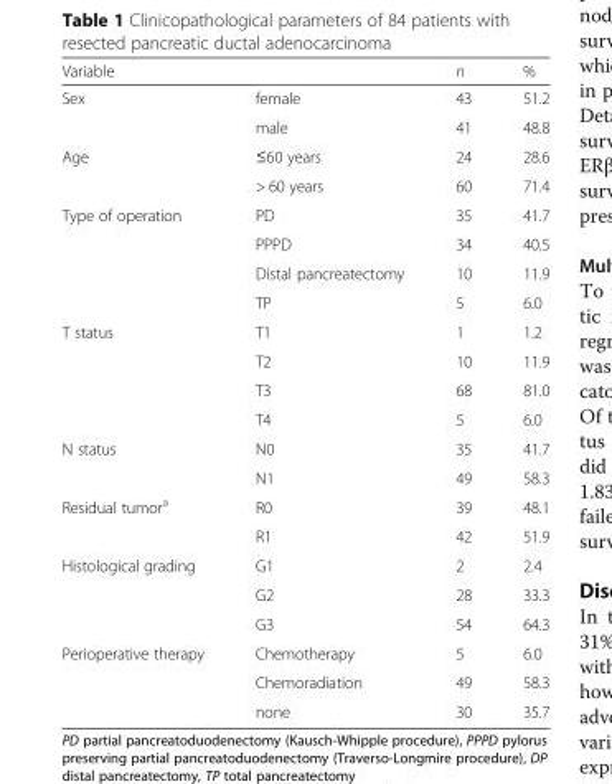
<table><thead><tr><td>Variable</td><td></td><td>n</td><td>%</td></tr></thead><tbody><tr><td rowspan="2">Sex</td><td>female</td><td>43</td><td>51.2</td></tr><tr><td>male</td><td>41</td><td>48.8</td></tr><tr><td rowspan="2">Age</td><td>≤60 years</td><td>24</td><td>28.6</td></tr><tr><td>&gt; 60 years</td><td>60</td><td>71.4</td></tr><tr><td rowspan="4">Type of operation</td><td>PD</td><td>35</td><td>41.7</td></tr><tr><td>PPPD</td><td>34</td><td>40.5</td></tr><tr><td>Distal pancreatectomy</td><td>10</td><td>11.9</td></tr><tr><td>TP</td><td>5</td><td>6.0</td></tr><tr><td rowspan="4">T status</td><td>T1</td><td>1</td><td>1.2</td></tr><tr><td>T2</td><td>10</td><td>11.9</td></tr><tr><td>T3</td><td>68</td><td>81.0</td></tr><tr><td>T4</td><td>5</td><td>6.0</td></tr><tr><td rowspan="2">N status</td><td>N0</td><td>35</td><td>41.7</td></tr><tr><td>N1</td><td>49</td><td>58.3</td></tr><tr><td rowspan="2">Residual tumor<sup>a</sup></td><td>R0</td><td>39</td><td>48.1</td></tr><tr><td>R1</td><td>42</td><td>51.9</td></tr><tr><td rowspan="3">Histological grading</td><td>G1</td><td>2</td><td>2.4</td></tr><tr><td>G2</td><td>28</td><td>33.3</td></tr><tr><td>G3</td><td>54</td><td>64.3</td></tr><tr><td rowspan="3">Perioperative therapy</td><td>Chemotherapy</td><td>5</td><td>6.0</td></tr><tr><td>Chemoradiation</td><td>49</td><td>58.3</td></tr><tr><td>none</td><td>30</td><td>35.7</td></tr></tbody></table>